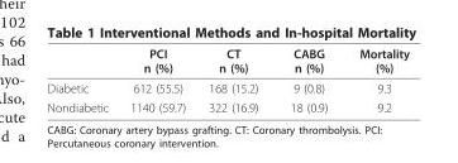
<table><thead><tr><td></td><td>PCI n (%)</td><td>CT n (%)</td><td>CABG n (%)</td><td>Mortality (%)</td></tr></thead><tbody><tr><td>Diabetic</td><td>612 (55.5)</td><td>168 (15.2)</td><td>9 (0.8)</td><td>9.3</td></tr><tr><td>Nondiabetic</td><td>1140 (59.7)</td><td>322 (16.9)</td><td>18 (0.9)</td><td>9.2</td></tr></tbody></table>